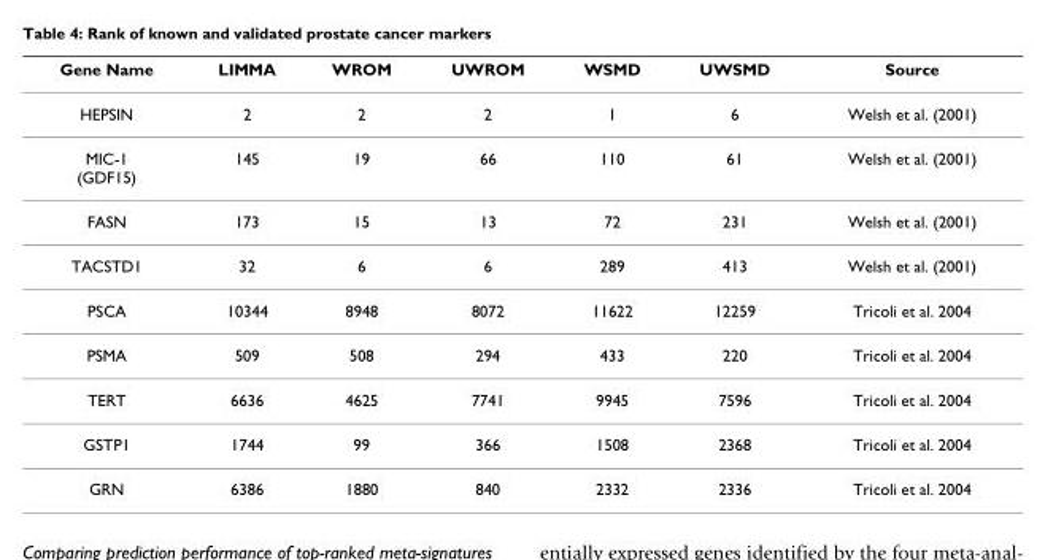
<table><thead><tr><td>Gene Name</td><td>LIMMA</td><td>WROM</td><td>UWROM</td><td>WSMD</td><td>UWSMD</td><td>Source</td></tr></thead><tbody><tr><td>HEPSIN</td><td>2</td><td>2</td><td>2</td><td>1</td><td>6</td><td>Welsh et al. (2001)</td></tr><tr><td>MIC-1 (GDF15)</td><td>145</td><td>19</td><td>66</td><td>110</td><td>61</td><td>Welsh et al. (2001)</td></tr><tr><td>FASN</td><td>173</td><td>15</td><td>13</td><td>72</td><td>231</td><td>Welsh et al. (2001)</td></tr><tr><td>TACSTD1</td><td>32</td><td>6</td><td>6</td><td>289</td><td>413</td><td>Welsh et al. (2001)</td></tr><tr><td>PSCA</td><td>10344</td><td>8948</td><td>8072</td><td>11622</td><td>12259</td><td>Tricoli et al. 2004</td></tr><tr><td>PSMA</td><td>509</td><td>508</td><td>294</td><td>433</td><td>220</td><td>Tricoli et al. 2004</td></tr><tr><td>TERT</td><td>6636</td><td>4625</td><td>7741</td><td>9945</td><td>7596</td><td>Tricoli et al. 2004</td></tr><tr><td>GSTP1</td><td>1744</td><td>99</td><td>366</td><td>1508</td><td>2368</td><td>Tricoli et al. 2004</td></tr><tr><td>GRN</td><td>6386</td><td>1880</td><td>840</td><td>2332</td><td>2336</td><td>Tricoli et al. 2004</td></tr></tbody></table>